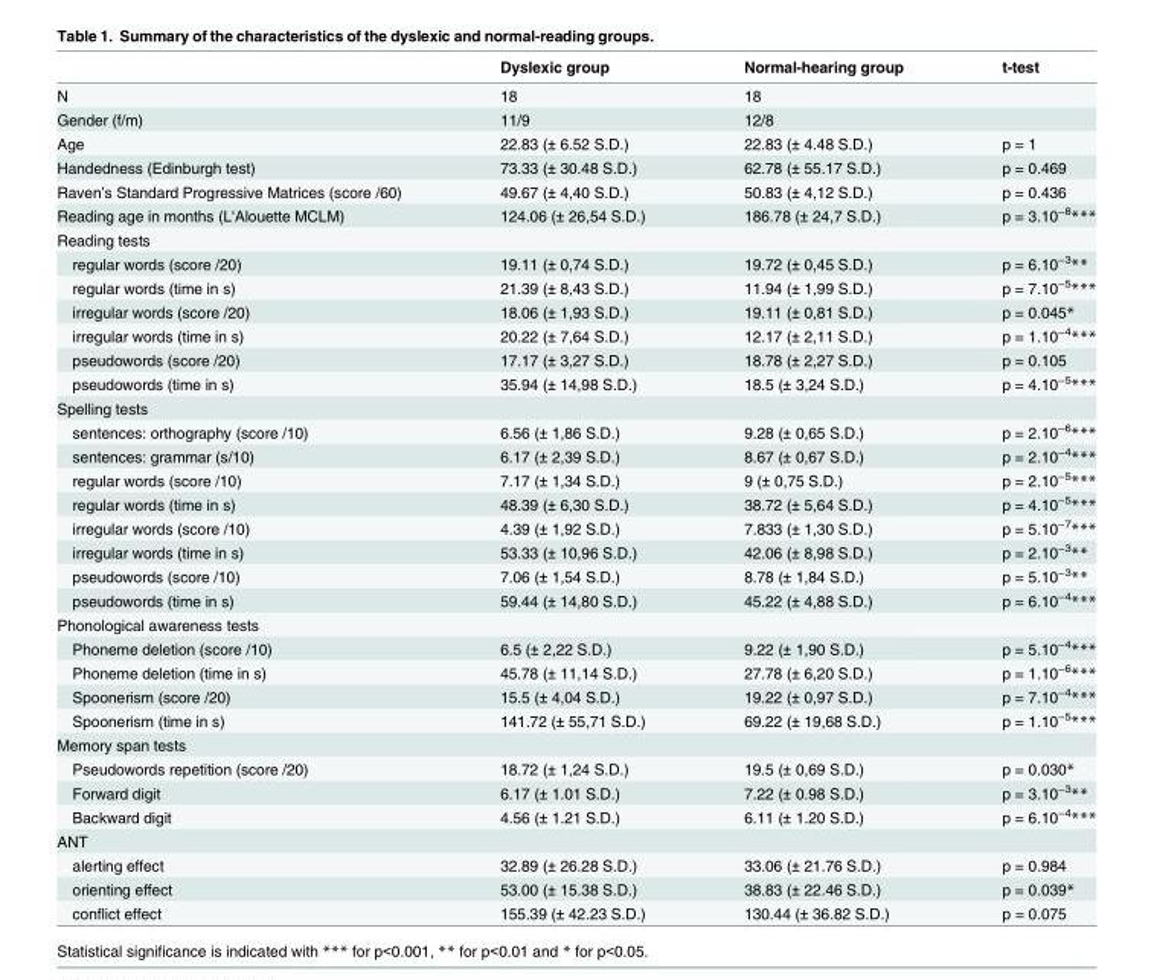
<table><thead><tr><td></td><td>Dyslexic group</td><td>Normal-hearing group</td><td>t-test</td></tr></thead><tbody><tr><td>N</td><td>18</td><td>18</td><td></td></tr><tr><td>Gender (f/m)</td><td>11/9</td><td>12/8</td><td></td></tr><tr><td>Age</td><td>22.83 (± 6.52 S.D.)</td><td>22.83 (± 4.48 S.D.)</td><td>p = 1</td></tr><tr><td>Handedness (Edinburgh test)</td><td>73.33 (± 30.48 S.D.)</td><td>62.78 (± 55.17 S.D.)</td><td>p = 0.469</td></tr><tr><td>Raven’s Standard Progressive Matrices (score /60)</td><td>49.67 (± 4,40 S.D.)</td><td>50.83 (± 4,12 S.D.)</td><td>p = 0.436</td></tr><tr><td>Reading age in months (L&#x27;Alouette MCLM)</td><td>124.06 (± 26,54 S.D.)</td><td>186.78 (± 24,7 S.D.)</td><td>p = 3.10<sup>−8</sup>***</td></tr><tr><td colspan="4">Reading tests</td></tr><tr><td>regular words (score /20)</td><td>19.11 (± 0,74 S.D.)</td><td>19.72 (± 0,45 S.D.)</td><td>p = 6.10<sup>−3</sup>**</td></tr><tr><td>regular words (time in s)</td><td>21.39 (± 8,43 S.D.)</td><td>11.94 (± 1,99 S.D.)</td><td>p = 7.10<sup>−5</sup>***</td></tr><tr><td>irregular words (score /20)</td><td>18.06 (± 1,93 S.D.)</td><td>19.11 (± 0,81 S.D.)</td><td>p = 0.045*</td></tr><tr><td>irregular words (time in s)</td><td>20.22 (± 7,64 S.D.)</td><td>12.17 (± 2,11 S.D.)</td><td>p = 1.10<sup>−4</sup>***</td></tr><tr><td>pseudowords (score /20)</td><td>17.17 (± 3,27 S.D.)</td><td>18.78 (± 2,27 S.D.)</td><td>p = 0.105</td></tr><tr><td>pseudowords (time in s)</td><td>35.94 (± 14,98 S.D.)</td><td>18.5 (± 3,24 S.D.)</td><td>p = 4.10<sup>−5</sup>***</td></tr><tr><td colspan="4">Spelling tests</td></tr><tr><td>sentences: orthography (score /10)</td><td>6.56 (± 1,86 S.D.)</td><td>9.28 (± 0,65 S.D.)</td><td>p = 2.10<sup>−6</sup>***</td></tr><tr><td>sentences: grammar (s/10)</td><td>6.17 (± 2,39 S.D.)</td><td>8.67 (± 0,67 S.D.)</td><td>p = 2.10<sup>−4</sup>***</td></tr><tr><td>regular words (score /10)</td><td>7.17 (± 1,34 S.D.)</td><td>9 (± 0,75 S.D.)</td><td>p = 2.10<sup>−5</sup>***</td></tr><tr><td>regular words (time in s)</td><td>48.39 (± 6,30 S.D.)</td><td>38.72 (± 5,64 S.D.)</td><td>p = 4.10<sup>−5</sup>***</td></tr><tr><td>irregular words (score /10)</td><td>4.39 (± 1,92 S.D.)</td><td>7.833 (± 1,30 S.D.)</td><td>p = 5.10<sup>−7</sup>***</td></tr><tr><td>irregular words (time in s)</td><td>53.33 (± 10,96 S.D.)</td><td>42.06 (± 8,98 S.D.)</td><td>p = 2.10<sup>−3</sup>**</td></tr><tr><td>pseudowords (score /10)</td><td>7.06 (± 1,54 S.D.)</td><td>8.78 (± 1,84 S.D.)</td><td>p = 5.10<sup>−3</sup>**</td></tr><tr><td>pseudowords (time in s)</td><td>59.44 (± 14,80 S.D.)</td><td>45.22 (± 4,88 S.D.)</td><td>p = 6.10<sup>−4</sup>***</td></tr><tr><td colspan="4">Phonological awareness tests</td></tr><tr><td>Phoneme deletion (score /10)</td><td>6.5 (± 2,22 S.D.)</td><td>9.22 (± 1,90 S.D.)</td><td>p = 5.10<sup>−4</sup>***</td></tr><tr><td>Phoneme deletion (time in s)</td><td>45.78 (± 11,14 S.D.)</td><td>27.78 (± 6,20 S.D.)</td><td>p = 1.10<sup>−6</sup>***</td></tr><tr><td>Spoonerism (score /20)</td><td>15.5 (± 4,04 S.D.)</td><td>19.22 (± 0,97 S.D.)</td><td>p = 7.10<sup>−4</sup>***</td></tr><tr><td>Spoonerism (time in s)</td><td>141.72 (± 55,71 S.D.)</td><td>69.22 (± 19,68 S.D.)</td><td>p = 1.10<sup>−5</sup>***</td></tr><tr><td colspan="4">Memory span tests</td></tr><tr><td>Pseudowords repetition (score /20)</td><td>18.72 (± 1,24 S.D.)</td><td>19.5 (± 0,69 S.D.)</td><td>p = 0.030*</td></tr><tr><td>Forward digit</td><td>6.17 (± 1.01 S.D.)</td><td>7.22 (± 0.98 S.D.)</td><td>p = 3.10<sup>−3</sup>**</td></tr><tr><td>Backward digit</td><td>4.56 (± 1.21 S.D.)</td><td>6.11 (± 1.20 S.D.)</td><td>p = 6.10<sup>−4</sup>***</td></tr><tr><td colspan="4">ANT</td></tr><tr><td>alerting effect</td><td>32.89 (± 26.28 S.D.)</td><td>33.06 (± 21.76 S.D.)</td><td>p = 0.984</td></tr><tr><td>orienting effect</td><td>53.00 (± 15.38 S.D.)</td><td>38.83 (± 22.46 S.D.)</td><td>p = 0.039*</td></tr><tr><td>conflict effect</td><td>155.39 (± 42.23 S.D.)</td><td>130.44 (± 36.82 S.D.)</td><td>p = 0.075</td></tr></tbody></table>